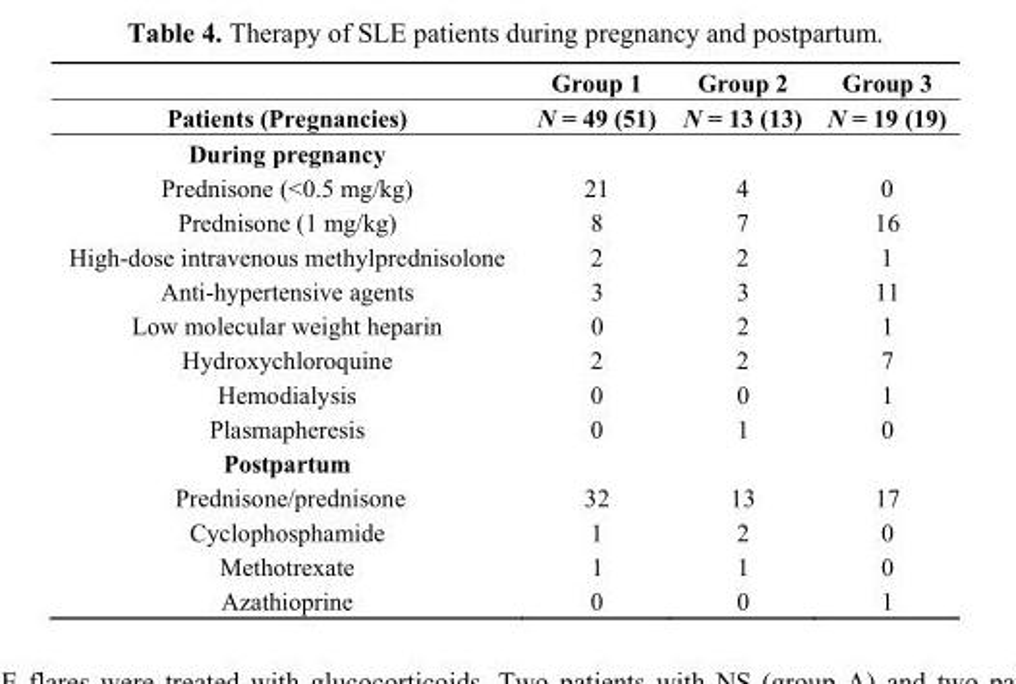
<table><thead><tr><td rowspan="2">Patients (Pregnancies)</td><td rowspan="2">Group 1 N = 49 (51)</td><td rowspan="2">Group 2 N = 13 (13)</td><td rowspan="2">Group 3 N = 19 (19)</td></tr><tr></tr></thead><tbody><tr><td colspan="4">During pregnancy</td></tr><tr><td>Prednisone (&lt;0.5 mg/kg)</td><td>21</td><td>4</td><td>0</td></tr><tr><td>Prednisone (1 mg/kg)</td><td>8</td><td>7</td><td>16</td></tr><tr><td>High-dose intravenous methylprednisolone</td><td>2</td><td>2</td><td>1</td></tr><tr><td>Anti-hypertensive agents</td><td>3</td><td>3</td><td>11</td></tr><tr><td>Low molecular weight heparin</td><td>0</td><td>2</td><td>1</td></tr><tr><td>Hydroxychloroquine</td><td>2</td><td>2</td><td>7</td></tr><tr><td>Hemodialysis</td><td>0</td><td>0</td><td>1</td></tr><tr><td>Plasmapheresis</td><td>0</td><td>1</td><td>0</td></tr><tr><td colspan="4">Postpartum</td></tr><tr><td>Prednisone/prednisone</td><td>32</td><td>13</td><td>17</td></tr><tr><td>Cyclophosphamide</td><td>1</td><td>2</td><td>0</td></tr><tr><td>Methotrexate</td><td>1</td><td>1</td><td>0</td></tr><tr><td>Azathioprine</td><td>0</td><td>0</td><td>1</td></tr></tbody></table>